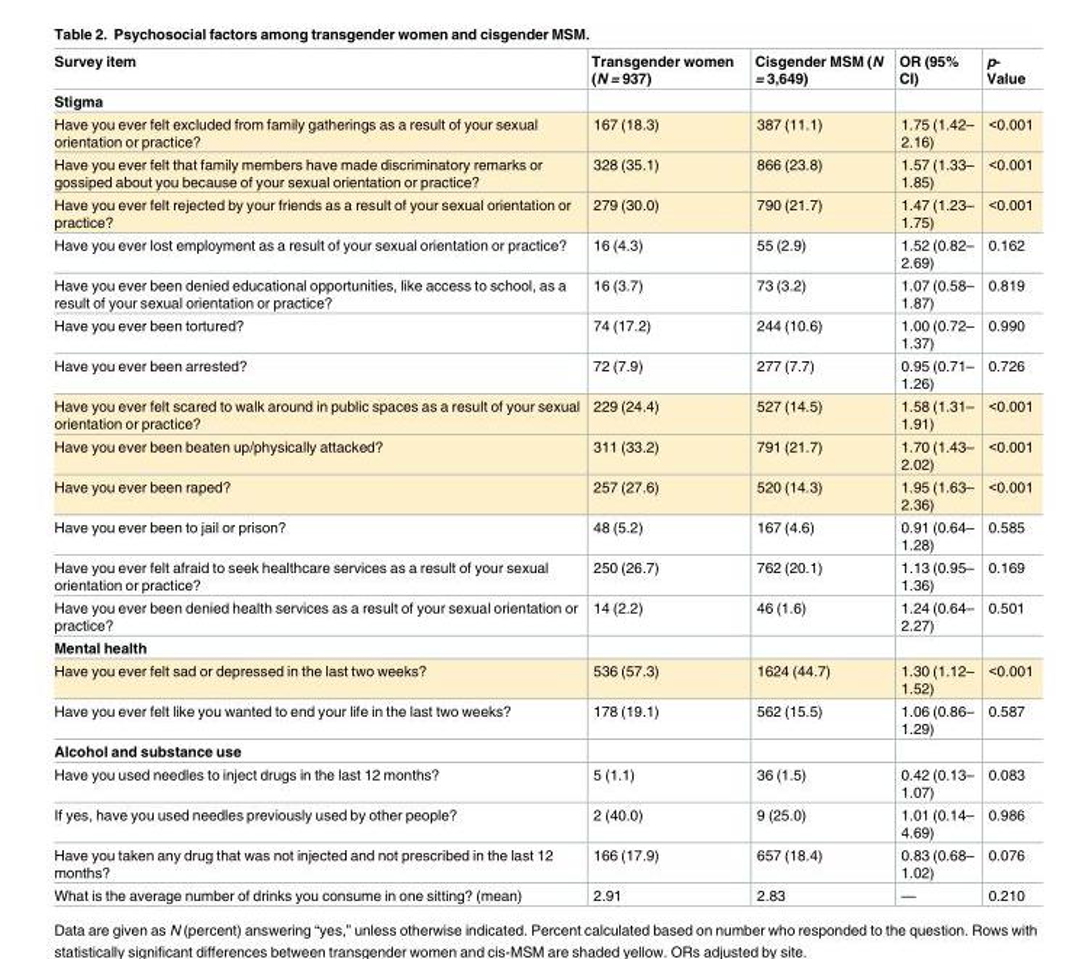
<table><thead><tr><td>Survey item</td><td>Transgender women (N = 937)</td><td>Cisgender MSM (N = 3,649)</td><td>OR (95% CI)</td><td>p- Value</td></tr></thead><tbody><tr><td colspan="5">Stigma</td></tr><tr><td>Have you ever felt excluded from family gatherings as a result of your sexual orientation or practice?</td><td>167 (18.3)</td><td>387 (11.1)</td><td>1.75 (1.42– 2.16)</td><td>&lt;0.001</td></tr><tr><td>Have you ever felt that family members have made discriminatory remarks or gossiped about you because of your sexual orientation or practice?</td><td>328 (35.1)</td><td>866 (23.8)</td><td>1.57 (1.33– 1.85)</td><td>&lt;0.001</td></tr><tr><td>Have you ever felt rejected by your friends as a result of your sexual orientation or practice?</td><td>279 (30.0)</td><td>790 (21.7)</td><td>1.47 (1.23– 1.75)</td><td>&lt;0.001</td></tr><tr><td>Have you ever lost employment as a result of your sexual orientation or practice?</td><td>16 (4.3)</td><td>55 (2.9)</td><td>1.52 (0.82– 2.69)</td><td>0.162</td></tr><tr><td>Have you ever been denied educational opportunities, like access to school, as a result of your sexual orientation or practice?</td><td>16 (3.7)</td><td>73 (3.2)</td><td>1.07 (0.58– 1.87)</td><td>0.819</td></tr><tr><td>Have you ever been tortured?</td><td>74 (17.2)</td><td>244 (10.6)</td><td>1.00 (0.72– 1.37)</td><td>0.990</td></tr><tr><td>Have you ever been arrested?</td><td>72 (7.9)</td><td>277 (7.7)</td><td>0.95 (0.71– 1.26)</td><td>0.726</td></tr><tr><td>Have you ever felt scared to walk around in public spaces as a result of your sexual orientation or practice?</td><td>229 (24.4)</td><td>527 (14.5)</td><td>1.58 (1.31– 1.91)</td><td>&lt;0.001</td></tr><tr><td>Have you ever been beaten up/physically attacked?</td><td>311 (33.2)</td><td>791 (21.7)</td><td>1.70 (1.43– 2.02)</td><td>&lt;0.001</td></tr><tr><td>Have you ever been raped?</td><td>257 (27.6)</td><td>520 (14.3)</td><td>1.95 (1.63– 2.36)</td><td>&lt;0.001</td></tr><tr><td>Have you ever been to jail or prison?</td><td>48 (5.2)</td><td>167 (4.6)</td><td>0.91 (0.64– 1.28)</td><td>0.585</td></tr><tr><td>Have you ever felt afraid to seek healthcare services as a result of your sexual orientation or practice?</td><td>250 (26.7)</td><td>762 (20.1)</td><td>1.13 (0.95– 1.36)</td><td>0.169</td></tr><tr><td>Have you ever been denied health services as a result of your sexual orientation or practice?</td><td>14 (2.2)</td><td>46 (1.6)</td><td>1.24 (0.64– 2.27)</td><td>0.501</td></tr><tr><td colspan="5">Mental health</td></tr><tr><td>Have you ever felt sad or depressed in the last two weeks?</td><td>536 (57.3)</td><td>1624 (44.7)</td><td>1.30 (1.12– 1.52)</td><td>&lt;0.001</td></tr><tr><td>Have you ever felt like you wanted to end your life in the last two weeks?</td><td>178 (19.1)</td><td>562 (15.5)</td><td>1.06 (0.86– 1.29)</td><td>0.587</td></tr><tr><td colspan="5">Alcohol and substance use</td></tr><tr><td>Have you used needles to inject drugs in the last 12 months?</td><td>5 (1.1)</td><td>36 (1.5)</td><td>0.42 (0.13– 1.07)</td><td>0.083</td></tr><tr><td>If yes, have you used needles previously used by other people?</td><td>2 (40.0)</td><td>9 (25.0)</td><td>1.01 (0.14– 4.69)</td><td>0.986</td></tr><tr><td>Have you taken any drug that was not injected and not prescribed in the last 12 months?</td><td>166 (17.9)</td><td>657 (18.4)</td><td>0.83 (0.68– 1.02)</td><td>0.076</td></tr><tr><td>What is the average number of drinks you consume in one sitting? (mean)</td><td>2.91</td><td>2.83</td><td>—</td><td>0.210</td></tr></tbody></table>